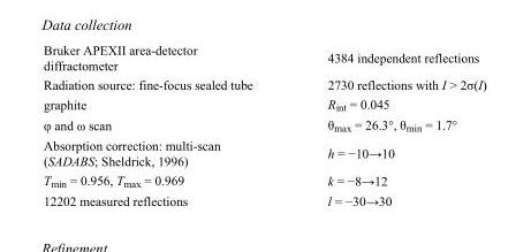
<table><tbody><tr><td>Bruker APEXII area-detector diffractometer</td><td>4384 independent reflections</td></tr><tr><td>Radiation source: fine-focus sealed tube</td><td>2730 reflections with I &gt; 2σ(I)</td></tr><tr><td>graphite</td><td>R<sub>int</sub> = 0.045</td></tr><tr><td>φ and ω scan</td><td>θ<sub>max</sub> = 26.3°, θ<sub>min</sub> = 1.7°</td></tr><tr><td>Absorption correction: multi-scan (SADABS; Sheldrick, 1996)</td><td>h = −10→10</td></tr><tr><td>T<sub>min</sub> = 0.956, T<sub>max</sub> = 0.969</td><td>k = −8→12</td></tr><tr><td>12202 measured reflections</td><td>l = −30→30</td></tr></tbody></table>